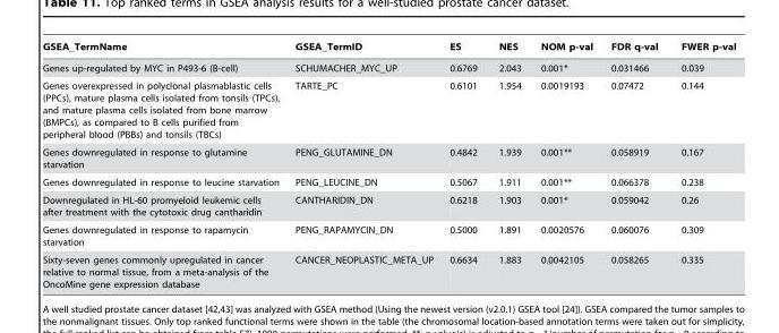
<table><thead><tr><td>GSEA_TermName</td><td>GSEA_TermID</td><td>ES</td><td>NES</td><td>NOM p-val</td><td>FDR q-val</td><td>FWER p-val</td></tr></thead><tbody><tr><td>Genes up-regulated by MYC in P493-6 (B-cell)</td><td>SCHUMACHER_MYC_UP</td><td>0.6769</td><td>2.043</td><td>0.001*</td><td>0.031466</td><td>0.039</td></tr><tr><td>Genes overexpressed in polyclonal plasmablastic cells (PPCs), mature plasma cells isolated from tonsils (TPCs), and mature plasma cells isolated from bone marrow (BMPCs), as compared to B cells purified from peripheral blood (PBBs) and tonsils (TBCs)</td><td>TARTE_PC</td><td>0.6101</td><td>1.954</td><td>0.0019193</td><td>0.07472</td><td>0.144</td></tr><tr><td>Genes downregulated in response to glutamine starvation</td><td>PENG_GLUTAMINE_DN</td><td>0.4842</td><td>1.939</td><td>0.001**</td><td>0.058919</td><td>0.167</td></tr><tr><td>Genes downregulated in response to leucine starvation</td><td>PENG_LEUCINE_DN</td><td>0.5067</td><td>1.911</td><td>0.001**</td><td>0.066378</td><td>0.238</td></tr><tr><td>Downregulated in HL-60 promyeloid leukemic cells after treatment with the cytotoxic drug cantharidin</td><td>CANTHARIDIN_DN</td><td>0.6218</td><td>1.903</td><td>0.001*</td><td>0.059042</td><td>0.26</td></tr><tr><td>Genes downregulated in response to rapamycin starvation</td><td>PENG_RAPAMYCIN_DN</td><td>0.5000</td><td>1.891</td><td>0.0020576</td><td>0.060076</td><td>0.309</td></tr><tr><td>Sixty-seven genes commonly upregulated in cancer relative to normal tissue, from a meta-analysis of the OncoMine gene expression database</td><td>CANCER_NEOPLASTIC_META_UP</td><td>0.6634</td><td>1.883</td><td>0.0042105</td><td>0.058265</td><td>0.335</td></tr></tbody></table>